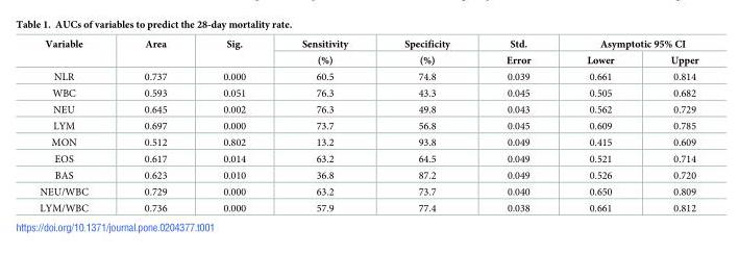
<table><thead><tr><td rowspan="2">Variable</td><td rowspan="2">Area</td><td rowspan="2">Sig.</td><td rowspan="2">Sensitivity (%)</td><td rowspan="2">Specificity (%)</td><td rowspan="2">Std. Error</td><td colspan="2">Asymptotic 95% CI</td></tr><tr><td>Lower</td><td>Upper</td></tr></thead><tbody><tr><td>NLR</td><td>0.737</td><td>0.000</td><td>60.5</td><td>74.8</td><td>0.039</td><td>0.661</td><td>0.814</td></tr><tr><td>WBC</td><td>0.593</td><td>0.051</td><td>76.3</td><td>43.3</td><td>0.045</td><td>0.505</td><td>0.682</td></tr><tr><td>NEU</td><td>0.645</td><td>0.002</td><td>76.3</td><td>49.8</td><td>0.043</td><td>0.562</td><td>0.729</td></tr><tr><td>LYM</td><td>0.697</td><td>0.000</td><td>73.7</td><td>56.8</td><td>0.045</td><td>0.609</td><td>0.785</td></tr><tr><td>MON</td><td>0.512</td><td>0.802</td><td>13.2</td><td>93.8</td><td>0.049</td><td>0.415</td><td>0.609</td></tr><tr><td>EOS</td><td>0.617</td><td>0.014</td><td>63.2</td><td>64.5</td><td>0.049</td><td>0.521</td><td>0.714</td></tr><tr><td>BAS</td><td>0.623</td><td>0.010</td><td>36.8</td><td>87.2</td><td>0.049</td><td>0.526</td><td>0.720</td></tr><tr><td>NEU/WBC</td><td>0.729</td><td>0.000</td><td>63.2</td><td>73.7</td><td>0.040</td><td>0.650</td><td>0.809</td></tr><tr><td>LYM/WBC</td><td>0.736</td><td>0.000</td><td>57.9</td><td>77.4</td><td>0.038</td><td>0.661</td><td>0.812</td></tr></tbody></table>